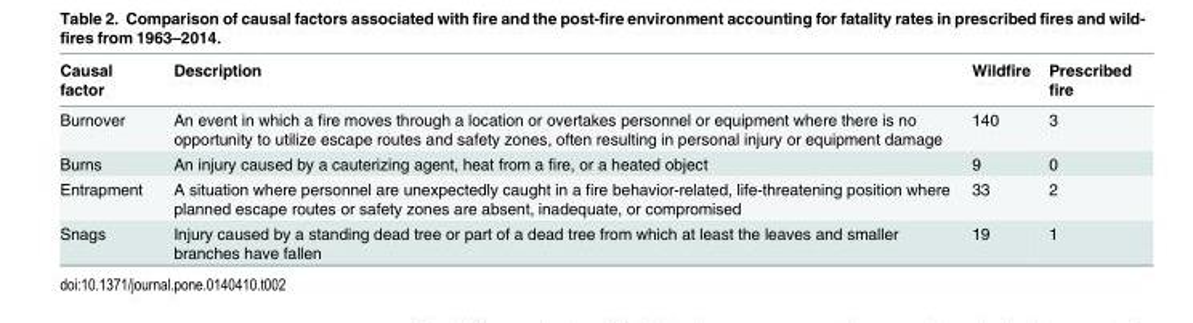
<table><thead><tr><td>Causal factor</td><td>Description</td><td>Wildfire</td><td>Prescribed fire</td></tr></thead><tbody><tr><td>Burnover</td><td>An event in which a fire moves through a location or overtakes personnel or equipment where there is no opportunity to utilize escape routes and safety zones, often resulting in personal injury or equipment damage</td><td>140</td><td>3</td></tr><tr><td>Burns</td><td>An injury caused by a cauterizing agent, heat from a fire, or a heated object</td><td>9</td><td>0</td></tr><tr><td>Entrapment</td><td>A situation where personnel are unexpectedly caught in a fire behavior-related, life-threatening position where planned escape routes or safety zones are absent, inadequate, or compromised</td><td>33</td><td>2</td></tr><tr><td>Snags</td><td>Injury caused by a standing dead tree or part of a dead tree from which at least the leaves and smaller branches have fallen</td><td>19</td><td>1</td></tr></tbody></table>